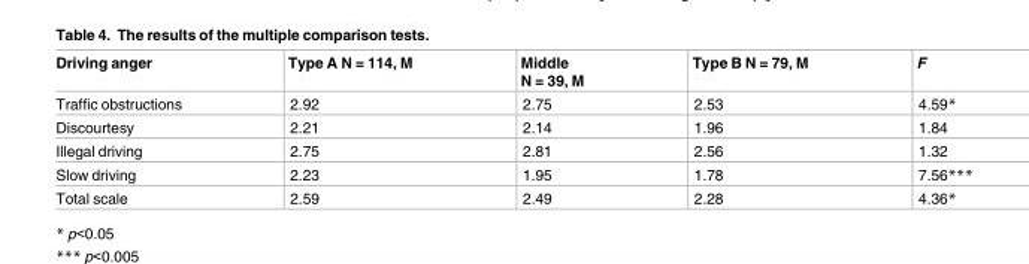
<table><thead><tr><td>Driving anger</td><td>Type A N = 114, M</td><td>Middle N = 39, M</td><td>Type B N = 79, M</td><td>F</td></tr></thead><tbody><tr><td>Traffic obstructions</td><td>2.92</td><td>2.75</td><td>2.53</td><td>4.59*</td></tr><tr><td>Discourtesy</td><td>2.21</td><td>2.14</td><td>1.96</td><td>1.84</td></tr><tr><td>Illegal driving</td><td>2.75</td><td>2.81</td><td>2.56</td><td>1.32</td></tr><tr><td>Slow driving</td><td>2.23</td><td>1.95</td><td>1.78</td><td>7.56***</td></tr><tr><td>Total scale</td><td>2.59</td><td>2.49</td><td>2.28</td><td>4.36*</td></tr></tbody></table>